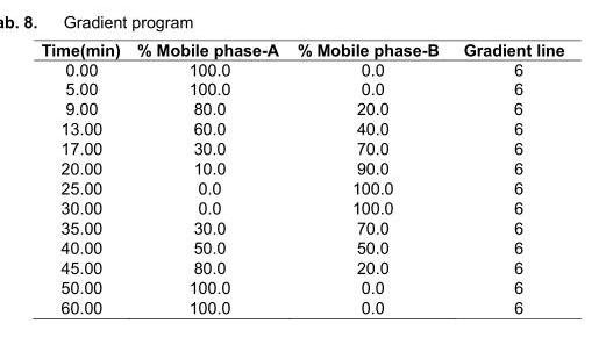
<table><thead><tr><td>Time(min)</td><td>% Mobile phase-A</td><td>% Mobile phase-B</td><td>Gradient line</td></tr></thead><tbody><tr><td>0.00</td><td>100.0</td><td>0.0</td><td>6</td></tr><tr><td>5.00</td><td>100.0</td><td>0.0</td><td>6</td></tr><tr><td>9.00</td><td>80.0</td><td>20.0</td><td>6</td></tr><tr><td>13.00</td><td>60.0</td><td>40.0</td><td>6</td></tr><tr><td>17.00</td><td>30.0</td><td>70.0</td><td>6</td></tr><tr><td>20.00</td><td>10.0</td><td>90.0</td><td>6</td></tr><tr><td>25.00</td><td>0.0</td><td>100.0</td><td>6</td></tr><tr><td>30.00</td><td>0.0</td><td>100.0</td><td>6</td></tr><tr><td>35.00</td><td>30.0</td><td>70.0</td><td>6</td></tr><tr><td>40.00</td><td>50.0</td><td>50.0</td><td>6</td></tr><tr><td>45.00</td><td>80.0</td><td>20.0</td><td>6</td></tr><tr><td>50.00</td><td>100.0</td><td>0.0</td><td>6</td></tr><tr><td>60.00</td><td>100.0</td><td>0.0</td><td>6</td></tr></tbody></table>